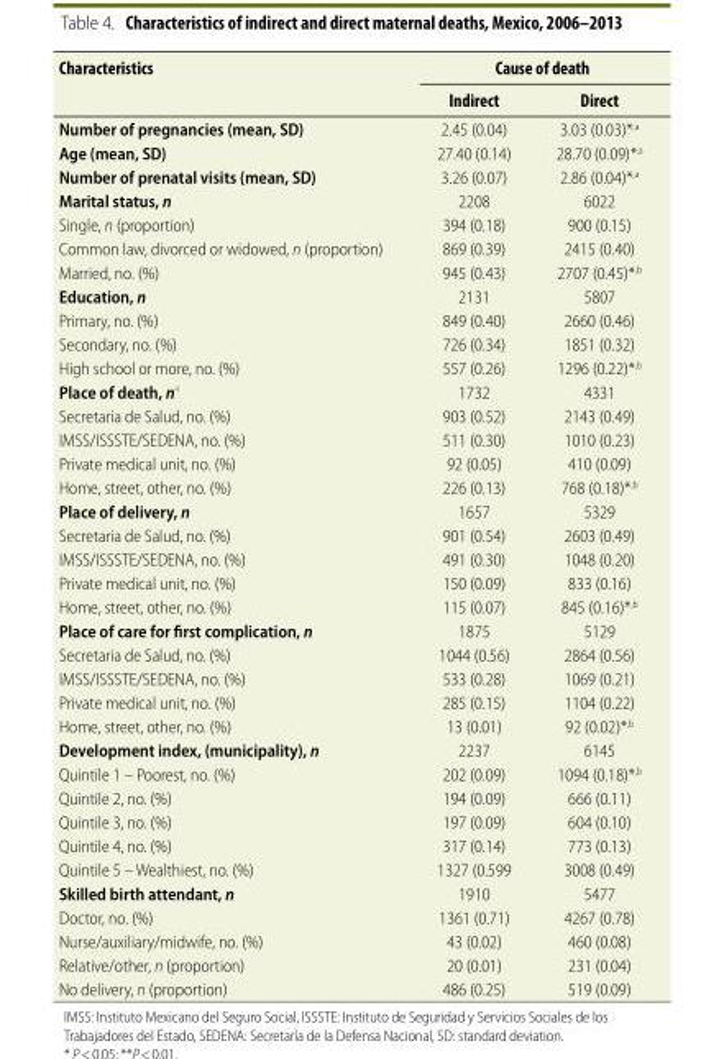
<table><thead><tr><td rowspan="2">Characteristics</td><td colspan="2">Cause of death</td></tr><tr><td>Indirect</td><td>Direct</td></tr></thead><tbody><tr><td>Number of pregnancies (mean, SD)</td><td>2.45 (0.04)</td><td>3.03 (0.03)*<sup>,a</sup></td></tr><tr><td>Age (mean, SD)</td><td>27.40 (0.14)</td><td>28.70 (0.09)*<sup>,a</sup></td></tr><tr><td>Number of prenatal visits (mean, SD)</td><td>3.26 (0.07)</td><td>2.86 (0.04)*<sup>,a</sup></td></tr><tr><td>Marital status, n</td><td>2208</td><td>6022</td></tr><tr><td>Single, n (proportion)</td><td>394 (0.18)</td><td>900 (0.15)</td></tr><tr><td>Common law, divorced or widowed, n (proportion)</td><td>869 (0.39)</td><td>2415 (0.40)</td></tr><tr><td>Married, no. (%)</td><td>945 (0.43)</td><td>2707 (0.45)*<sup>,b</sup></td></tr><tr><td>Education, n</td><td>2131</td><td>5807</td></tr><tr><td>Primary, no. (%)</td><td>849 (0.40)</td><td>2660 (0.46)</td></tr><tr><td>Secondary, no. (%)</td><td>726 (0.34)</td><td>1851 (0.32)</td></tr><tr><td>High school or more, no. (%)</td><td>557 (0.26)</td><td>1296 (0.22)*<sup>,b</sup></td></tr><tr><td>Place of death, n<sup>4</sup></td><td>1732</td><td>4331</td></tr><tr><td>Secretaria de Salud, no. (%)</td><td>903 (0.52)</td><td>2143 (0.49)</td></tr><tr><td>IMSS/ISSSTE/SEDENA, no. (%)</td><td>511 (0.30)</td><td>1010 (0.23)</td></tr><tr><td>Private medical unit, no. (%)</td><td>92 (0.05)</td><td>410 (0.09)</td></tr><tr><td>Home, street, other, no. (%)</td><td>226 (0.13)</td><td>768 (0.18)*<sup>,b</sup></td></tr><tr><td>Place of delivery, n</td><td>1657</td><td>5329</td></tr><tr><td>Secretaria de Salud, no. (%)</td><td>901 (0.54)</td><td>2603 (0.49)</td></tr><tr><td>IMSS/ISSSTE/SEDENA, no. (%)</td><td>491 (0.30)</td><td>1048 (0.20)</td></tr><tr><td>Private medical unit, no. (%)</td><td>150 (0.09)</td><td>833 (0.16)</td></tr><tr><td>Home, street, other, no. (%)</td><td>115 (0.07)</td><td>845 (0.16)*<sup>,b</sup></td></tr><tr><td>Place of care for first complication, n</td><td>1875</td><td>5129</td></tr><tr><td>Secretaria de Salud, no. (%)</td><td>1044 (0.56)</td><td>2864 (0.56)</td></tr><tr><td>IMSS/ISSSTE/SEDENA, no. (%)</td><td>533 (0.28)</td><td>1069 (0.21)</td></tr><tr><td>Private medical unit, no. (%)</td><td>285 (0.15)</td><td>1104 (0.22)</td></tr><tr><td>Home, street, other, no. (%)</td><td>13 (0.01)</td><td>92 (0.02)*<sup>,b</sup></td></tr><tr><td>Development index, (municipality), n</td><td>2237</td><td>6145</td></tr><tr><td>Quintile 1 – Poorest, no. (%)</td><td>202 (0.09)</td><td>1094 (0.18)*<sup>,b</sup></td></tr><tr><td>Quintile 2, no. (%)</td><td>194 (0.09)</td><td>666 (0.11)</td></tr><tr><td>Quintile 3, no. (%)</td><td>197 (0.09)</td><td>604 (0.10)</td></tr><tr><td>Quintile 4, no. (%)</td><td>317 (0.14)</td><td>773 (0.13)</td></tr><tr><td>Quintile 5 – Wealthiest, no. (%)</td><td>1327 (0.599</td><td>3008 (0.49)</td></tr><tr><td>Skilled birth attendant, n</td><td>1910</td><td>5477</td></tr><tr><td>Doctor, no. (%)</td><td>1361 (0.71)</td><td>4267 (0.78)</td></tr><tr><td>Nurse/auxiliary/midwife, no. (%)</td><td>43 (0.02)</td><td>460 (0.08)</td></tr><tr><td>Relative/other, n (proportion)</td><td>20 (0.01)</td><td>231 (0.04)</td></tr><tr><td>No delivery, n (proportion)</td><td>486 (0.25)</td><td>519 (0.09)</td></tr></tbody></table>